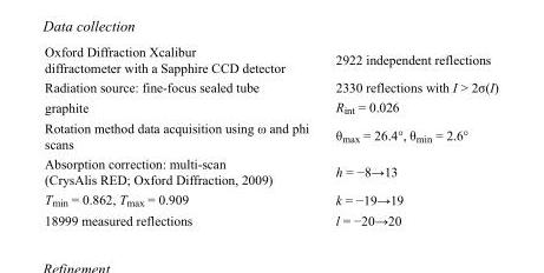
<table><tbody><tr><td>Oxford Diffraction Xcalibur diffractometer with a Sapphire CCD detector</td><td>2922 independent reflections</td></tr><tr><td>Radiation source: fine-focus sealed tube</td><td>2330 reflections with I &gt; 2σ(I)</td></tr><tr><td>graphite</td><td>R<sub>int</sub> = 0.026</td></tr><tr><td>Rotation method data acquisition using ω and phi scans</td><td>θ<sub>max</sub> = 26.4°, θ<sub>min</sub> = 2.6°</td></tr><tr><td>Absorption correction: multi-scan (CrysAlis RED; Oxford Diffraction, 2009)</td><td>h = −8→13</td></tr><tr><td>T<sub>min</sub> = 0.862, T<sub>max</sub> = 0.909</td><td>k = −19→19</td></tr><tr><td>18999 measured reflections</td><td>l = −20→20</td></tr></tbody></table>